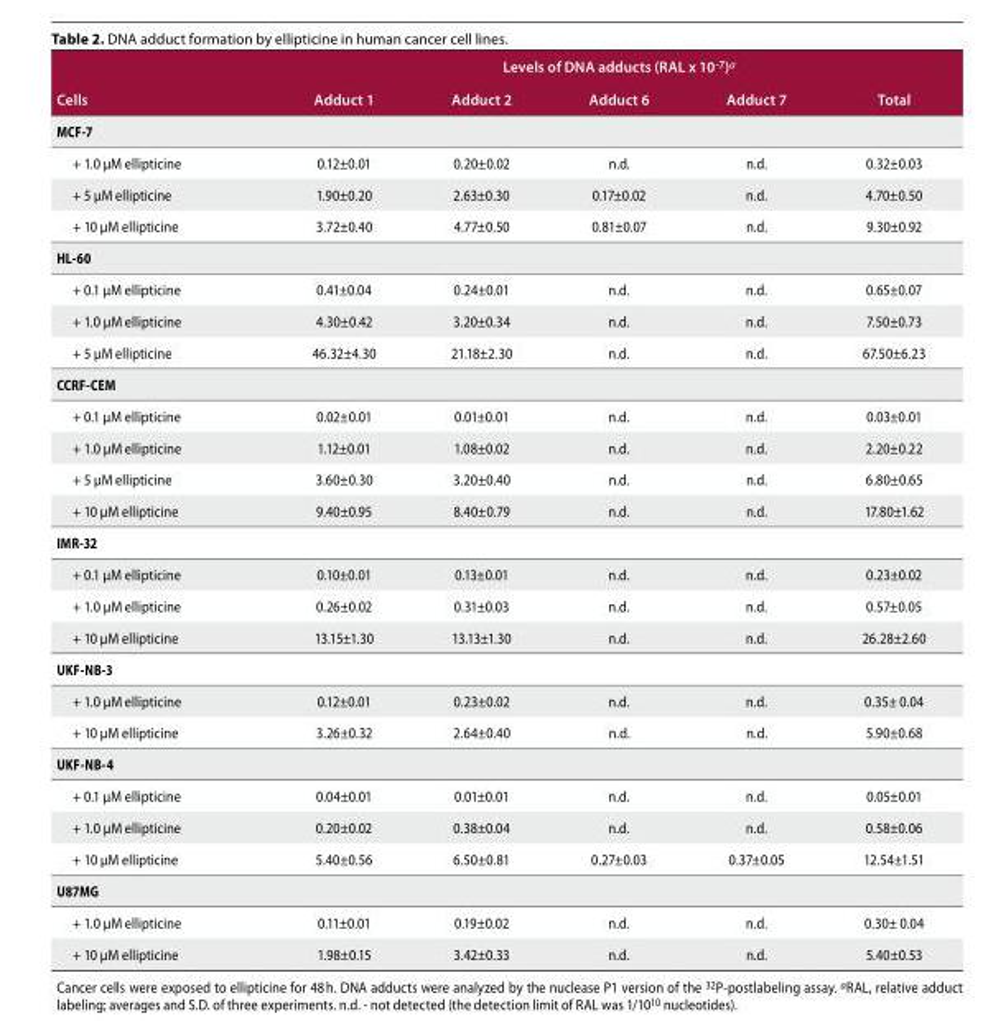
<table><thead><tr><td rowspan="2">Cells</td><td colspan="5">Levels of DNA adducts (RAL x 10<sup>-7</sup>)<sup>a</sup></td></tr><tr><td>Adduct 1</td><td>Adduct 2</td><td>Adduct 6</td><td>Adduct 7</td><td>Total</td></tr></thead><tbody><tr><td colspan="6">MCF-7</td></tr><tr><td>+ 1.0 μM ellipticine</td><td>0.12±0.01</td><td>0.20±0.02</td><td>n.d.</td><td>n.d.</td><td>0.32±0.03</td></tr><tr><td>+ 5 μM ellipticine</td><td>1.90±0.20</td><td>2.63±0.30</td><td>0.17±0.02</td><td>n.d.</td><td>4.70±0.50</td></tr><tr><td>+ 10 μM ellipticine</td><td>3.72±0.40</td><td>4.77±0.50</td><td>0.81±0.07</td><td>n.d.</td><td>9.30±0.92</td></tr><tr><td colspan="6">HL-60</td></tr><tr><td>+ 0.1 μM ellipticine</td><td>0.41±0.04</td><td>0.24±0.01</td><td>n.d.</td><td>n.d.</td><td>0.65±0.07</td></tr><tr><td>+ 1.0 μM ellipticine</td><td>4.30±0.42</td><td>3.20±0.34</td><td>n.d.</td><td>n.d.</td><td>7.50±0.73</td></tr><tr><td>+ 5 μM ellipticine</td><td>46.32±4.30</td><td>21.18±2.30</td><td>n.d.</td><td>n.d.</td><td>67.50±6.23</td></tr><tr><td colspan="6">CCRF-CEM</td></tr><tr><td>+ 0.1 μM ellipticine</td><td>0.02±0.01</td><td>0.01±0.01</td><td>n.d.</td><td>n.d.</td><td>0.03±0.01</td></tr><tr><td>+ 1.0 μM ellipticine</td><td>1.12±0.01</td><td>1.08±0.02</td><td>n.d.</td><td>n.d.</td><td>2.20±0.22</td></tr><tr><td>+ 5 μM ellipticine</td><td>3.60±0.30</td><td>3.20±0.40</td><td>n.d.</td><td>n.d.</td><td>6.80±0.65</td></tr><tr><td>+ 10 μM ellipticine</td><td>9.40±0.95</td><td>8.40±0.79</td><td>n.d.</td><td>n.d.</td><td>17.80±1.62</td></tr><tr><td colspan="6">IMR-32</td></tr><tr><td>+ 0.1 μM ellipticine</td><td>0.10±0.01</td><td>0.13±0.01</td><td>n.d.</td><td>n.d.</td><td>0.23±0.02</td></tr><tr><td>+ 1.0 μM ellipticine</td><td>0.26±0.02</td><td>0.31±0.03</td><td>n.d.</td><td>n.d.</td><td>0.57±0.05</td></tr><tr><td>+ 10 μM ellipticine</td><td>13.15±1.30</td><td>13.13±1.30</td><td>n.d.</td><td>n.d.</td><td>26.28±2.60</td></tr><tr><td colspan="6">UKF-NB-3</td></tr><tr><td>+ 1.0 μM ellipticine</td><td>0.12±0.01</td><td>0.23±0.02</td><td>n.d.</td><td>n.d.</td><td>0.35± 0.04</td></tr><tr><td>+ 10 μM ellipticine</td><td>3.26±0.32</td><td>2.64±0.40</td><td>n.d.</td><td>n.d.</td><td>5.90±0.68</td></tr><tr><td colspan="6">UKF-NB-4</td></tr><tr><td>+ 0.1 μM ellipticine</td><td>0.04±0.01</td><td>0.01±0.01</td><td>n.d.</td><td>n.d.</td><td>0.05±0.01</td></tr><tr><td>+ 1.0 μM ellipticine</td><td>0.20±0.02</td><td>0.38±0.04</td><td>n.d.</td><td>n.d.</td><td>0.58±0.06</td></tr><tr><td>+ 10 μM ellipticine</td><td>5.40±0.56</td><td>6.50±0.81</td><td>0.27±0.03</td><td>0.37±0.05</td><td>12.54±1.51</td></tr><tr><td colspan="6">U87MG</td></tr><tr><td>+ 1.0 μM ellipticine</td><td>0.11±0.01</td><td>0.19±0.02</td><td>n.d.</td><td>n.d.</td><td>0.30± 0.04</td></tr><tr><td>+ 10 μM ellipticine</td><td>1.98±0.15</td><td>3.42±0.33</td><td>n.d.</td><td>n.d.</td><td>5.40±0.53</td></tr></tbody></table>